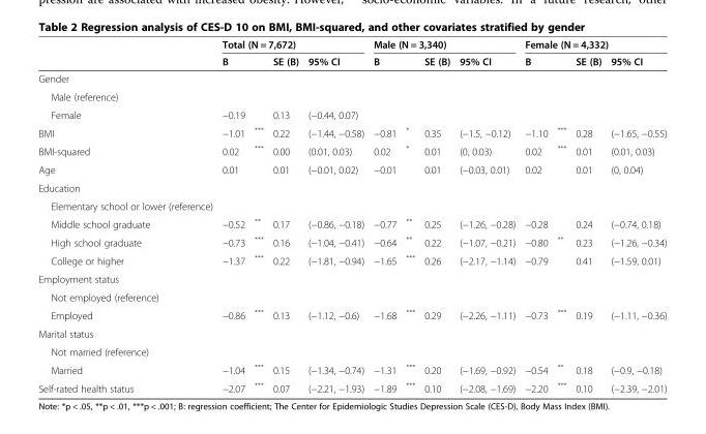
<table><thead><tr><td rowspan="2"></td><td colspan="4">Total (N = 7,672)</td><td colspan="4">Male (N = 3,340)</td><td colspan="4">Female (N = 4,332)</td></tr><tr><td>B</td><td></td><td>SE (B)</td><td>95% CI</td><td>B</td><td></td><td>SE (B)</td><td>95% CI</td><td>B</td><td></td><td>SE (B)</td><td>95% CI</td></tr></thead><tbody><tr><td colspan="13">Gender</td></tr><tr><td colspan="13">Male (reference)</td></tr><tr><td>Female</td><td>−0.19</td><td></td><td>0.13</td><td>(−0.44, 0.07)</td><td></td><td></td><td></td><td></td><td></td><td></td><td></td><td></td></tr><tr><td>BMI</td><td>−1.01</td><td>***</td><td>0.22</td><td>(−1.44, −0.58)</td><td>−0.81</td><td>*</td><td>0.35</td><td>(−1.5, −0.12)</td><td>−1.10</td><td>***</td><td>0.28</td><td>(−1.65, −0.55)</td></tr><tr><td>BMI-squared</td><td>0.02</td><td>***</td><td>0.00</td><td>(0.01, 0.03)</td><td>0.02</td><td>*</td><td>0.01</td><td>(0, 0.03)</td><td>0.02</td><td>***</td><td>0.01</td><td>(0.01, 0.03)</td></tr><tr><td>Age</td><td>0.01</td><td></td><td>0.01</td><td>(−0.01, 0.02)</td><td>−0.01</td><td></td><td>0.01</td><td>(−0.03, 0.01)</td><td>0.02</td><td></td><td>0.01</td><td>(0, 0.04)</td></tr><tr><td colspan="13">Education</td></tr><tr><td colspan="13">Elementary school or lower (reference)</td></tr><tr><td>Middle school graduate</td><td>−0.52</td><td>**</td><td>0.17</td><td>(−0.86, −0.18)</td><td>−0.77</td><td>**</td><td>0.25</td><td>(−1.26, −0.28)</td><td>−0.28</td><td></td><td>0.24</td><td>(−0.74, 0.18)</td></tr><tr><td>High school graduate</td><td>−0.73</td><td>***</td><td>0.16</td><td>(−1.04, −0.41)</td><td>−0.64</td><td>**</td><td>0.22</td><td>(−1.07, −0.21)</td><td>−0.80</td><td>**</td><td>0.23</td><td>(−1.26, −0.34)</td></tr><tr><td>College or higher</td><td>−1.37</td><td>***</td><td>0.22</td><td>(−1.81, −0.94)</td><td>−1.65</td><td>***</td><td>0.26</td><td>(−2.17, −1.14)</td><td>−0.79</td><td></td><td>0.41</td><td>(−1.59, 0.01)</td></tr><tr><td colspan="13">Employment status</td></tr><tr><td colspan="13">Not employed (reference)</td></tr><tr><td>Employed</td><td>−0.86</td><td>***</td><td>0.13</td><td>(−1.12, −0.6)</td><td>−1.68</td><td>***</td><td>0.29</td><td>(−2.26, −1.11)</td><td>−0.73</td><td>***</td><td>0.19</td><td>(−1.11, −0.36)</td></tr><tr><td colspan="13">Marital status</td></tr><tr><td colspan="13">Not married (reference)</td></tr><tr><td>Married</td><td>−1.04</td><td>***</td><td>0.15</td><td>(−1.34, −0.74)</td><td>−1.31</td><td>***</td><td>0.20</td><td>(−1.69, −0.92)</td><td>−0.54</td><td>**</td><td>0.18</td><td>(−0.9, −0.18)</td></tr><tr><td>Self-rated health status</td><td>−2.07</td><td>***</td><td>0.07</td><td>(−2.21, −1.93)</td><td>−1.89</td><td>***</td><td>0.10</td><td>(−2.08, −1.69)</td><td>−2.20</td><td>***</td><td>0.10</td><td>(−2.39, −2.01)</td></tr></tbody></table>